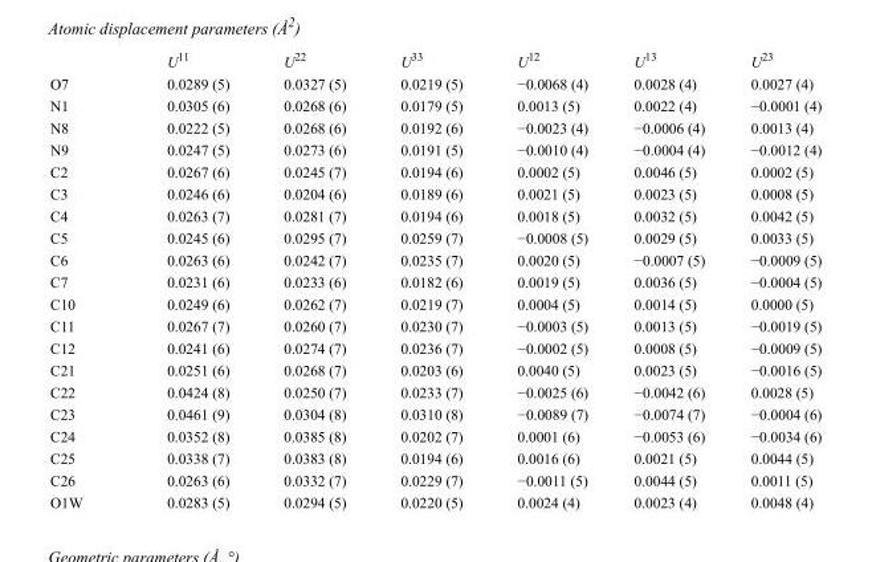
<table><thead><tr><td></td><td>U<sup>11</sup></td><td>U<sup>22</sup></td><td>U<sup>33</sup></td><td>U<sup>12</sup></td><td>U<sup>13</sup></td><td>U<sup>23</sup></td></tr></thead><tbody><tr><td>O7</td><td>0.0289 (5)</td><td>0.0327 (5)</td><td>0.0219 (5)</td><td>−0.0068 (4)</td><td>0.0028 (4)</td><td>0.0027 (4)</td></tr><tr><td>N1</td><td>0.0305 (6)</td><td>0.0268 (6)</td><td>0.0179 (5)</td><td>0.0013 (5)</td><td>0.0022 (4)</td><td>−0.0001 (4)</td></tr><tr><td>N8</td><td>0.0222 (5)</td><td>0.0268 (6)</td><td>0.0192 (6)</td><td>−0.0023 (4)</td><td>−0.0006 (4)</td><td>0.0013 (4)</td></tr><tr><td>N9</td><td>0.0247 (5)</td><td>0.0273 (6)</td><td>0.0191 (5)</td><td>−0.0010 (4)</td><td>−0.0004 (4)</td><td>−0.0012 (4)</td></tr><tr><td>C2</td><td>0.0267 (6)</td><td>0.0245 (7)</td><td>0.0194 (6)</td><td>0.0002 (5)</td><td>0.0046 (5)</td><td>0.0002 (5)</td></tr><tr><td>C3</td><td>0.0246 (6)</td><td>0.0204 (6)</td><td>0.0189 (6)</td><td>0.0021 (5)</td><td>0.0023 (5)</td><td>0.0008 (5)</td></tr><tr><td>C4</td><td>0.0263 (7)</td><td>0.0281 (7)</td><td>0.0194 (6)</td><td>0.0018 (5)</td><td>0.0032 (5)</td><td>0.0042 (5)</td></tr><tr><td>C5</td><td>0.0245 (6)</td><td>0.0295 (7)</td><td>0.0259 (7)</td><td>−0.0008 (5)</td><td>0.0029 (5)</td><td>0.0033 (5)</td></tr><tr><td>C6</td><td>0.0263 (6)</td><td>0.0242 (7)</td><td>0.0235 (7)</td><td>0.0020 (5)</td><td>−0.0007 (5)</td><td>−0.0009 (5)</td></tr><tr><td>C7</td><td>0.0231 (6)</td><td>0.0233 (6)</td><td>0.0182 (6)</td><td>0.0019 (5)</td><td>0.0036 (5)</td><td>−0.0004 (5)</td></tr><tr><td>C10</td><td>0.0249 (6)</td><td>0.0262 (7)</td><td>0.0219 (7)</td><td>0.0004 (5)</td><td>0.0014 (5)</td><td>0.0000 (5)</td></tr><tr><td>C11</td><td>0.0267 (7)</td><td>0.0260 (7)</td><td>0.0230 (7)</td><td>−0.0003 (5)</td><td>0.0013 (5)</td><td>−0.0019 (5)</td></tr><tr><td>C12</td><td>0.0241 (6)</td><td>0.0274 (7)</td><td>0.0236 (7)</td><td>−0.0002 (5)</td><td>0.0008 (5)</td><td>−0.0009 (5)</td></tr><tr><td>C21</td><td>0.0251 (6)</td><td>0.0268 (7)</td><td>0.0203 (6)</td><td>0.0040 (5)</td><td>0.0023 (5)</td><td>−0.0016 (5)</td></tr><tr><td>C22</td><td>0.0424 (8)</td><td>0.0250 (7)</td><td>0.0233 (7)</td><td>−0.0025 (6)</td><td>−0.0042 (6)</td><td>0.0028 (5)</td></tr><tr><td>C23</td><td>0.0461 (9)</td><td>0.0304 (8)</td><td>0.0310 (8)</td><td>−0.0089 (7)</td><td>−0.0074 (7)</td><td>−0.0004 (6)</td></tr><tr><td>C24</td><td>0.0352 (8)</td><td>0.0385 (8)</td><td>0.0202 (7)</td><td>0.0001 (6)</td><td>−0.0053 (6)</td><td>−0.0034 (6)</td></tr><tr><td>C25</td><td>0.0338 (7)</td><td>0.0383 (8)</td><td>0.0194 (6)</td><td>0.0016 (6)</td><td>0.0021 (5)</td><td>0.0044 (5)</td></tr><tr><td>C26</td><td>0.0263 (6)</td><td>0.0332 (7)</td><td>0.0229 (7)</td><td>−0.0011 (5)</td><td>0.0044 (5)</td><td>0.0011 (5)</td></tr><tr><td>O1W</td><td>0.0283 (5)</td><td>0.0294 (5)</td><td>0.0220 (5)</td><td>0.0024 (4)</td><td>0.0023 (4)</td><td>0.0048 (4)</td></tr></tbody></table>